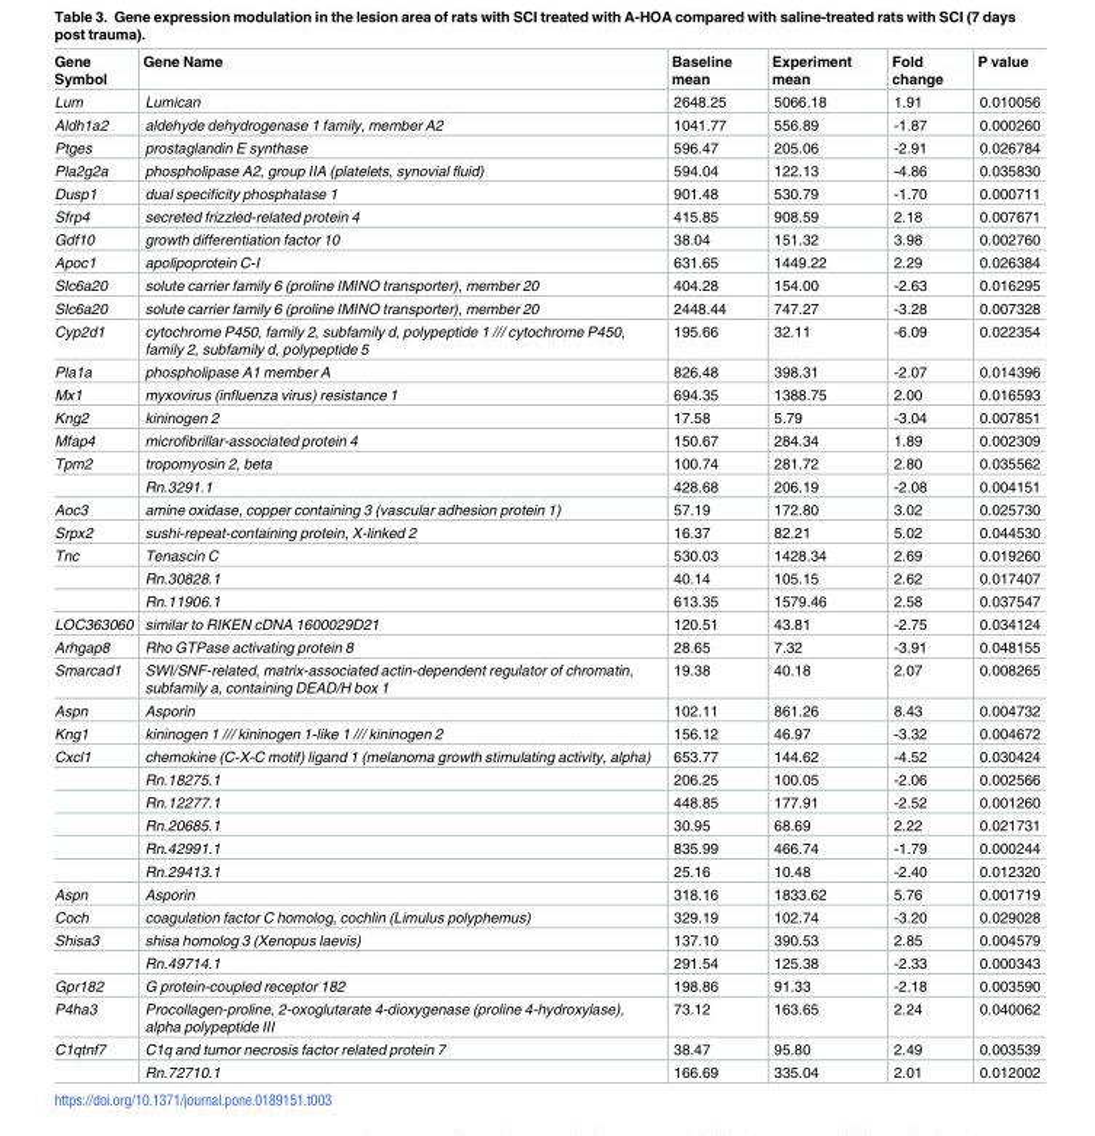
<table><thead><tr><td>Gene Symbol</td><td>Gene Name</td><td>Baseline mean</td><td>Experiment mean</td><td>Fold change</td><td>P value</td></tr></thead><tbody><tr><td>Lum</td><td>Lumican</td><td>2648.25</td><td>5066.18</td><td>1.91</td><td>0.010056</td></tr><tr><td>Aldh1a2</td><td>aldehyde dehydrogenase 1 family, member A2</td><td>1041.77</td><td>556.89</td><td>-1.87</td><td>0.000260</td></tr><tr><td>Ptges</td><td>prostaglandin E synthase</td><td>596.47</td><td>205.06</td><td>-2.91</td><td>0.026784</td></tr><tr><td>Pla2g2a</td><td>phospholipase A2, group IIA (platelets, synovial fluid)</td><td>594.04</td><td>122.13</td><td>-4.86</td><td>0.035830</td></tr><tr><td>Dusp1</td><td>dual specificity phosphatase 1</td><td>901.48</td><td>530.79</td><td>-1.70</td><td>0.000711</td></tr><tr><td>Sfrp4</td><td>secreted frizzled-related protein 4</td><td>415.85</td><td>908.59</td><td>2.18</td><td>0.007671</td></tr><tr><td>Gdf10</td><td>growth differentiation factor 10</td><td>38.04</td><td>151.32</td><td>3.98</td><td>0.002760</td></tr><tr><td>Apoc1</td><td>apolipoprotein C-I</td><td>631.65</td><td>1449.22</td><td>2.29</td><td>0.026384</td></tr><tr><td>Slc6a20</td><td>solute carrier family 6 (proline IMINO transporter), member 20</td><td>404.28</td><td>154.00</td><td>-2.63</td><td>0.016295</td></tr><tr><td>Slc6a20</td><td>solute carrier family 6 (proline IMINO transporter), member 20</td><td>2448.44</td><td>747.27</td><td>-3.28</td><td>0.007328</td></tr><tr><td>Cyp2d1</td><td>cytochrome P450, family 2, subfamily d, polypeptide 1 /// cytochrome P450, family 2, subfamily d, polypeptide 5</td><td>195.66</td><td>32.11</td><td>-6.09</td><td>0.022354</td></tr><tr><td>Pla1a</td><td>phospholipase A1 member A</td><td>826.48</td><td>398.31</td><td>-2.07</td><td>0.014396</td></tr><tr><td>Mx1</td><td>myxovirus (influenza virus) resistance 1</td><td>694.35</td><td>1388.75</td><td>2.00</td><td>0.016593</td></tr><tr><td>Kng2</td><td>kininogen 2</td><td>17.58</td><td>5.79</td><td>-3.04</td><td>0.007851</td></tr><tr><td>Mfap4</td><td>microfibrillar-associated protein 4</td><td>150.67</td><td>284.34</td><td>1.89</td><td>0.002309</td></tr><tr><td rowspan="2">Tpm2</td><td>tropomyosin 2, beta</td><td>100.74</td><td>281.72</td><td>2.80</td><td>0.035562</td></tr><tr><td>Rn.3291.1</td><td>428.68</td><td>206.19</td><td>-2.08</td><td>0.004151</td></tr><tr><td>Aoc3</td><td>amine oxidase, copper containing 3 (vascular adhesion protein 1)</td><td>57.19</td><td>172.80</td><td>3.02</td><td>0.025730</td></tr><tr><td>Srpx2</td><td>sushi-repeat-containing protein, X-linked 2</td><td>16.37</td><td>82.21</td><td>5.02</td><td>0.044530</td></tr><tr><td rowspan="3">Tnc</td><td>Tenascin C</td><td>530.03</td><td>1428.34</td><td>2.69</td><td>0.019260</td></tr><tr><td>Rn.30828.1</td><td>40.14</td><td>105.15</td><td>2.62</td><td>0.017407</td></tr><tr><td>Rn.11906.1</td><td>613.35</td><td>1579.46</td><td>2.58</td><td>0.037547</td></tr><tr><td>LOC363060</td><td>similar to RIKEN cDNA 1600029D21</td><td>120.51</td><td>43.81</td><td>-2.75</td><td>0.034124</td></tr><tr><td>Arhgap8</td><td>Rho GTPase activating protein 8</td><td>28.65</td><td>7.32</td><td>-3.91</td><td>0.048155</td></tr><tr><td>Smarcad1</td><td>SWI/SNF-related, matrix-associated actin-dependent regulator of chromatin, subfamily a, containing DEAD/H box 1</td><td>19.38</td><td>40.18</td><td>2.07</td><td>0.008265</td></tr><tr><td>Aspn</td><td>Asporin</td><td>102.11</td><td>861.26</td><td>8.43</td><td>0.004732</td></tr><tr><td>Kng1</td><td>kininogen 1 /// kininogen 1-like 1 /// kininogen 2</td><td>156.12</td><td>46.97</td><td>-3.32</td><td>0.004672</td></tr><tr><td rowspan="6">Cxcl1</td><td>chemokine (C-X-C motif) ligand 1 (melanoma growth stimulating activity, alpha)</td><td>653.77</td><td>144.62</td><td>-4.52</td><td>0.030424</td></tr><tr><td>Rn.18275.1</td><td>206.25</td><td>100.05</td><td>-2.06</td><td>0.002566</td></tr><tr><td>Rn.12277.1</td><td>448.85</td><td>177.91</td><td>-2.52</td><td>0.001260</td></tr><tr><td>Rn.20685.1</td><td>30.95</td><td>68.69</td><td>2.22</td><td>0.021731</td></tr><tr><td>Rn.42991.1</td><td>835.99</td><td>466.74</td><td>-1.79</td><td>0.000244</td></tr><tr><td>Rn.29413.1</td><td>25.16</td><td>10.48</td><td>-2.40</td><td>0.012320</td></tr><tr><td>Aspn</td><td>Asporin</td><td>318.16</td><td>1833.62</td><td>5.76</td><td>0.001719</td></tr><tr><td>Coch</td><td>coagulation factor C homolog, cochlin (Limulus polyphemus)</td><td>329.19</td><td>102.74</td><td>-3.20</td><td>0.029028</td></tr><tr><td rowspan="2">Shisa3</td><td>shisa homolog 3 (Xenopus laevis)</td><td>137.10</td><td>390.53</td><td>2.85</td><td>0.004579</td></tr><tr><td>Rn.49714.1</td><td>291.54</td><td>125.38</td><td>-2.33</td><td>0.000343</td></tr><tr><td>Gpr182</td><td>G protein-coupled receptor 182</td><td>198.86</td><td>91.33</td><td>-2.18</td><td>0.003590</td></tr><tr><td>P4ha3</td><td>Procollagen-proline, 2-oxoglutarate 4-dioxygenase (proline 4-hydroxylase), alpha polypeptide III</td><td>73.12</td><td>163.65</td><td>2.24</td><td>0.040062</td></tr><tr><td rowspan="2">C1qtnf7</td><td>C1q and tumor necrosis factor related protein 7</td><td>38.47</td><td>95.80</td><td>2.49</td><td>0.003539</td></tr><tr><td>Rn.72710.1</td><td>166.69</td><td>335.04</td><td>2.01</td><td>0.012002</td></tr></tbody></table>